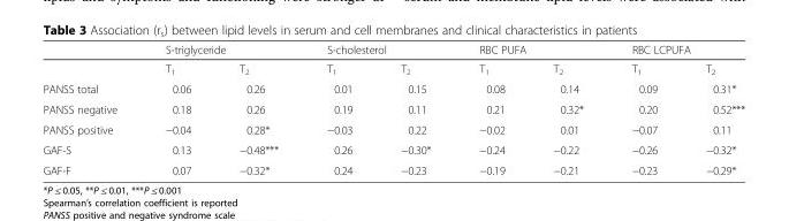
<table><thead><tr><td rowspan="2"></td><td colspan="2">S-triglyceride</td><td colspan="2">S-cholesterol</td><td colspan="2">RBC PUFA</td><td colspan="2">RBC LCPUFA</td></tr><tr><td>T<sub>1</sub></td><td>T<sub>2</sub></td><td>T<sub>1</sub></td><td>T<sub>2</sub></td><td>T<sub>1</sub></td><td>T<sub>2</sub></td><td>T<sub>1</sub></td><td>T<sub>2</sub></td></tr></thead><tbody><tr><td>PANSS total</td><td>0.06</td><td>0.26</td><td>0.01</td><td>0.15</td><td>0.08</td><td>0.14</td><td>0.09</td><td>0.31*</td></tr><tr><td>PANSS negative</td><td>0.18</td><td>0.26</td><td>0.19</td><td>0.11</td><td>0.21</td><td>0.32*</td><td>0.20</td><td>0.52***</td></tr><tr><td>PANSS positive</td><td>−0.04</td><td>0.28*</td><td>−0.03</td><td>0.22</td><td>−0.02</td><td>0.01</td><td>−0.07</td><td>0.11</td></tr><tr><td>GAF-S</td><td>0.13</td><td>−0.48***</td><td>0.26</td><td>−0.30*</td><td>−0.24</td><td>−0.22</td><td>−0.26</td><td>−0.32*</td></tr><tr><td>GAF-F</td><td>0.07</td><td>−0.32*</td><td>0.24</td><td>−0.23</td><td>−0.19</td><td>−0.21</td><td>−0.23</td><td>−0.29*</td></tr></tbody></table>